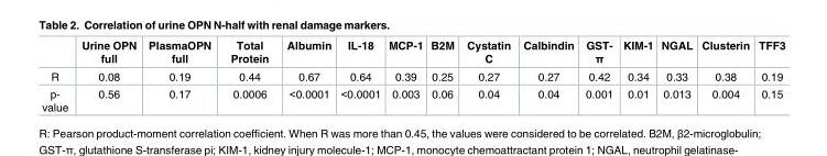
<table><thead><tr><td></td><td>Urine OPN full</td><td>PlasmaOPN full</td><td>Total Protein</td><td>Albumin</td><td>IL-18</td><td>MCP-1</td><td>B2M</td><td>Cystatin C</td><td>Calbindin</td><td>GST- π</td><td>KIM-1</td><td>NGAL</td><td>Clusterin</td><td>TFF3</td></tr></thead><tbody><tr><td>R</td><td>0.08</td><td>0.19</td><td>0.44</td><td>0.67</td><td>0.64</td><td>0.39</td><td>0.25</td><td>0.27</td><td>0.27</td><td>0.42</td><td>0.34</td><td>0.33</td><td>0.38</td><td>0.19</td></tr><tr><td>p- value</td><td>0.56</td><td>0.17</td><td>0.0006</td><td>&lt;0.0001</td><td>&lt;0.0001</td><td>0.003</td><td>0.06</td><td>0.04</td><td>0.04</td><td>0.001</td><td>0.01</td><td>0.013</td><td>0.004</td><td>0.15</td></tr></tbody></table>